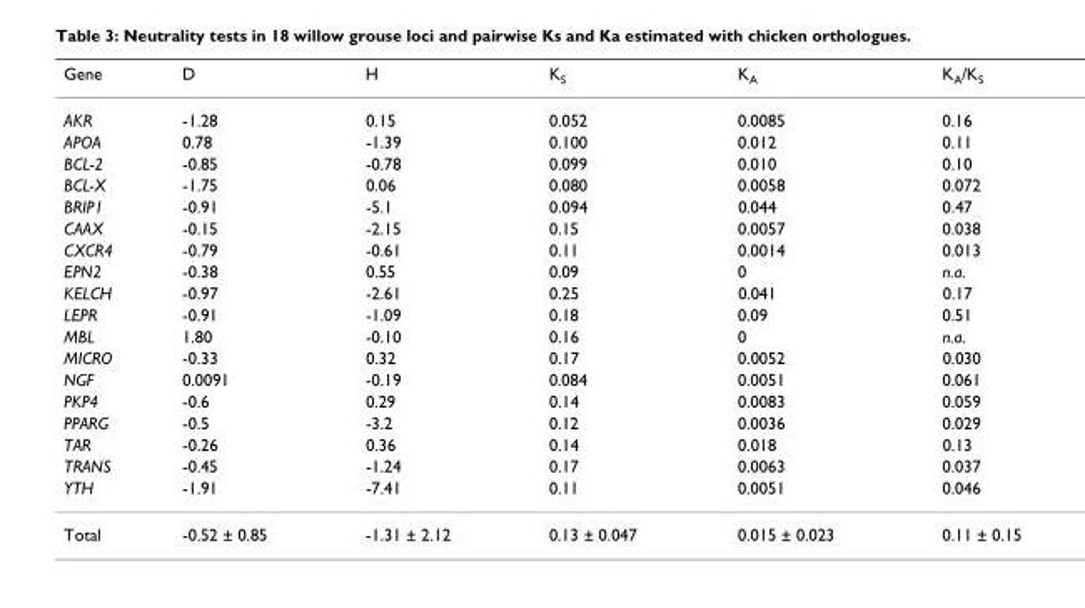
<table><thead><tr><td>Gene</td><td>D</td><td>H</td><td>K<sub>S</sub></td><td>K<sub>A</sub></td><td>K<sub>A</sub>/K<sub>S</sub></td></tr></thead><tbody><tr><td>AKR</td><td>-1.28</td><td>0.15</td><td>0.052</td><td>0.0085</td><td>0.16</td></tr><tr><td>APOA</td><td>0.78</td><td>-1.39</td><td>0.100</td><td>0.012</td><td>0.11</td></tr><tr><td>BCL-2</td><td>-0.85</td><td>-0.78</td><td>0.099</td><td>0.010</td><td>0.10</td></tr><tr><td>BCL-X</td><td>-1.75</td><td>0.06</td><td>0.080</td><td>0.0058</td><td>0.072</td></tr><tr><td>BRIP1</td><td>-0.91</td><td>-5.1</td><td>0.094</td><td>0.044</td><td>0.47</td></tr><tr><td>CAAX</td><td>-0.15</td><td>-2.15</td><td>0.15</td><td>0.0057</td><td>0.038</td></tr><tr><td>CXCR4</td><td>-0.79</td><td>-0.61</td><td>0.11</td><td>0.0014</td><td>0.013</td></tr><tr><td>EPN2</td><td>-0.38</td><td>0.55</td><td>0.09</td><td>0</td><td>n.a.</td></tr><tr><td>KELCH</td><td>-0.97</td><td>-2.61</td><td>0.25</td><td>0.041</td><td>0.17</td></tr><tr><td>LEPR</td><td>-0.91</td><td>-1.09</td><td>0.18</td><td>0.09</td><td>0.51</td></tr><tr><td>MBL</td><td>1.80</td><td>-0.10</td><td>0.16</td><td>0</td><td>n.a.</td></tr><tr><td>MICRO</td><td>-0.33</td><td>0.32</td><td>0.17</td><td>0.0052</td><td>0.030</td></tr><tr><td>NGF</td><td>0.0091</td><td>-0.19</td><td>0.084</td><td>0.0051</td><td>0.061</td></tr><tr><td>PKP4</td><td>-0.6</td><td>0.29</td><td>0.14</td><td>0.0083</td><td>0.059</td></tr><tr><td>PPARG</td><td>-0.5</td><td>-3.2</td><td>0.12</td><td>0.0036</td><td>0.029</td></tr><tr><td>TAR</td><td>-0.26</td><td>0.36</td><td>0.14</td><td>0.018</td><td>0.13</td></tr><tr><td>TRANS</td><td>-0.45</td><td>-1.24</td><td>0.17</td><td>0.0063</td><td>0.037</td></tr><tr><td>YTH</td><td>-1.91</td><td>-7.41</td><td>0.11</td><td>0.0051</td><td>0.046</td></tr><tr><td>Total</td><td>-0.52 ± 0.85</td><td>-1.31 ± 2.12</td><td>0.13 ± 0.047</td><td>0.015 ± 0.023</td><td>0.11 ± 0.15</td></tr></tbody></table>